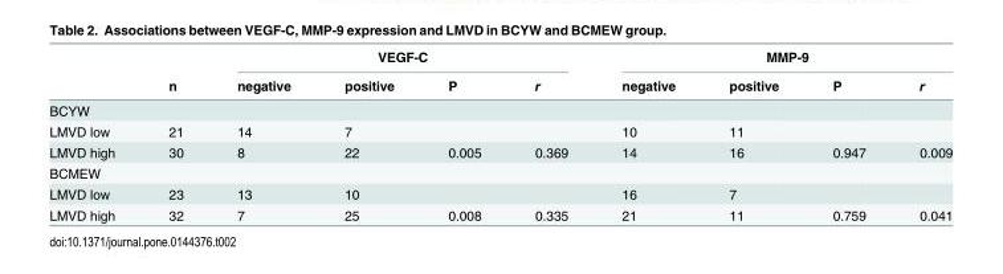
<table><thead><tr><td rowspan="2"></td><td rowspan="2">n</td><td colspan="4">VEGF-C</td><td colspan="4">MMP-9</td></tr><tr><td>negative</td><td>positive</td><td>P</td><td>r</td><td>negative</td><td>positive</td><td>P</td><td>r</td></tr></thead><tbody><tr><td colspan="10">BCYW</td></tr><tr><td>LMVD low</td><td>21</td><td>14</td><td>7</td><td></td><td></td><td>10</td><td>11</td><td></td><td></td></tr><tr><td>LMVD high</td><td>30</td><td>8</td><td>22</td><td>0.005</td><td>0.369</td><td>14</td><td>16</td><td>0.947</td><td>0.009</td></tr><tr><td colspan="10">BCMEW</td></tr><tr><td>LMVD low</td><td>23</td><td>13</td><td>10</td><td></td><td></td><td>16</td><td>7</td><td></td><td></td></tr><tr><td>LMVD high</td><td>32</td><td>7</td><td>25</td><td>0.008</td><td>0.335</td><td>21</td><td>11</td><td>0.759</td><td>0.041</td></tr></tbody></table>